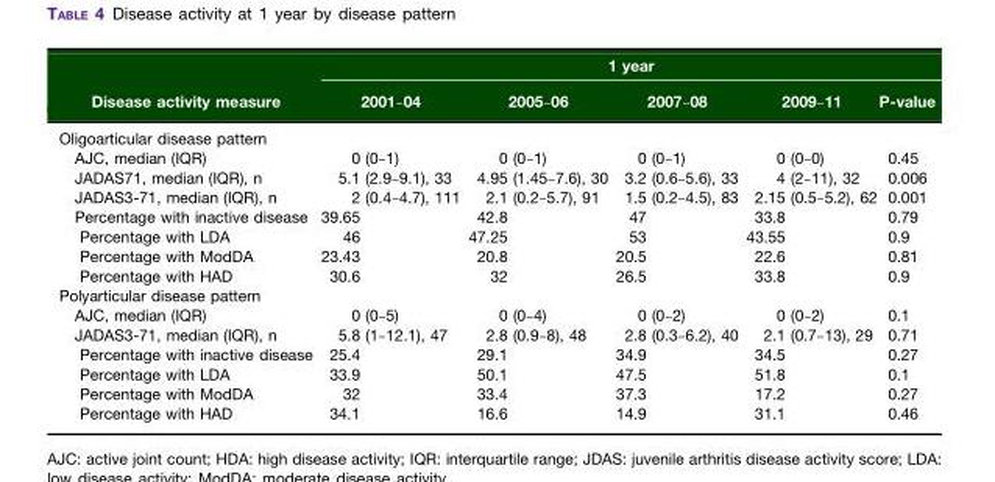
<table><thead><tr><td rowspan="2">Disease activity measure</td><td colspan="5">1 year</td></tr><tr><td>2001–04</td><td>2005–06</td><td>2007–08</td><td>2009–11</td><td>P-value</td></tr></thead><tbody><tr><td colspan="6">Oligoarticular disease pattern</td></tr><tr><td>AJC, median (IQR)</td><td>0 (0–1)</td><td>0 (0–1)</td><td>0 (0–1)</td><td>0 (0–0)</td><td>0.45</td></tr><tr><td>JADAS71, median (IQR), n</td><td>5.1 (2.9–9.1), 33</td><td>4.95 (1.45–7.6), 30</td><td>3.2 (0.6–5.6), 33</td><td>4 (2–11), 32</td><td>0.006</td></tr><tr><td>JADAS3-71, median (IQR), n</td><td>2 (0.4–4.7), 111</td><td>2.1 (0.2–5.7), 91</td><td>1.5 (0.2–4.5), 83</td><td>2.15 (0.5–5.2), 62</td><td>0.001</td></tr><tr><td>Percentage with inactive disease</td><td>39.65</td><td>42.8</td><td>47</td><td>33.8</td><td>0.79</td></tr><tr><td>Percentage with LDA</td><td>46</td><td>47.25</td><td>53</td><td>43.55</td><td>0.9</td></tr><tr><td>Percentage with ModDA</td><td>23.43</td><td>20.8</td><td>20.5</td><td>22.6</td><td>0.81</td></tr><tr><td>Percentage with HAD</td><td>30.6</td><td>32</td><td>26.5</td><td>33.8</td><td>0.9</td></tr><tr><td colspan="6">Polyarticular disease pattern</td></tr><tr><td>AJC, median (IQR)</td><td>0 (0–5)</td><td>0 (0–4)</td><td>0 (0–2)</td><td>0 (0–2)</td><td>0.1</td></tr><tr><td>JADAS3-71, median (IQR), n</td><td>5.8 (1–12.1), 47</td><td>2.8 (0.9–8), 48</td><td>2.8 (0.3–6.2), 40</td><td>2.1 (0.7–13), 29</td><td>0.71</td></tr><tr><td>Percentage with inactive disease</td><td>25.4</td><td>29.1</td><td>34.9</td><td>34.5</td><td>0.27</td></tr><tr><td>Percentage with LDA</td><td>33.9</td><td>50.1</td><td>47.5</td><td>51.8</td><td>0.1</td></tr><tr><td>Percentage with ModDA</td><td>32</td><td>33.4</td><td>37.3</td><td>17.2</td><td>0.27</td></tr><tr><td>Percentage with HAD</td><td>34.1</td><td>16.6</td><td>14.9</td><td>31.1</td><td>0.46</td></tr></tbody></table>